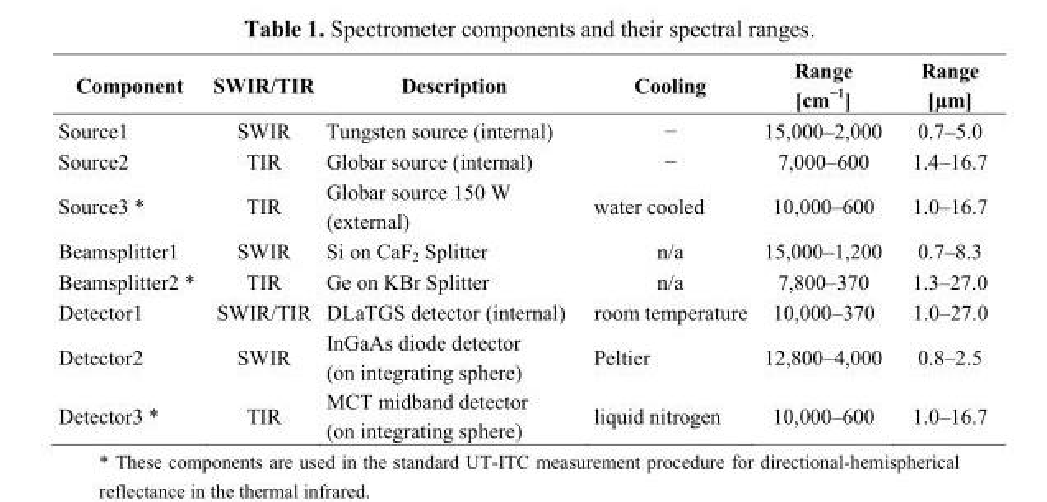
<table><thead><tr><td>Component</td><td>SWIR/TIR</td><td>Description</td><td>Cooling</td><td>Range [cm<sup>−1</sup>]</td><td>Range [µm]</td></tr></thead><tbody><tr><td>Source1</td><td>SWIR</td><td>Tungsten source (internal)</td><td>−</td><td>15,000–2,000</td><td>0.7–5.0</td></tr><tr><td>Source2</td><td>TIR</td><td>Globar source (internal)</td><td>−</td><td>7,000–600</td><td>1.4–16.7</td></tr><tr><td>Source3 *</td><td>TIR</td><td>Globar source 150 W (external)</td><td>water cooled</td><td>10,000–600</td><td>1.0–16.7</td></tr><tr><td>Beamsplitter1</td><td>SWIR</td><td>Si on CaF<sub>2</sub> Splitter</td><td>n/a</td><td>15,000–1,200</td><td>0.7–8.3</td></tr><tr><td>Beamsplitter2 *</td><td>TIR</td><td>Ge on KBr Splitter</td><td>n/a</td><td>7,800–370</td><td>1.3–27.0</td></tr><tr><td>Detector1</td><td>SWIR/TIR</td><td>DLaTGS detector (internal)</td><td>room temperature</td><td>10,000–370</td><td>1.0–27.0</td></tr><tr><td>Detector2</td><td>SWIR</td><td>InGaAs diode detector (on integrating sphere)</td><td>Peltier</td><td>12,800–4,000</td><td>0.8–2.5</td></tr><tr><td>Detector3 *</td><td>TIR</td><td>MCT midband detector (on integrating sphere)</td><td>liquid nitrogen</td><td>10,000–600</td><td>1.0–16.7</td></tr></tbody></table>